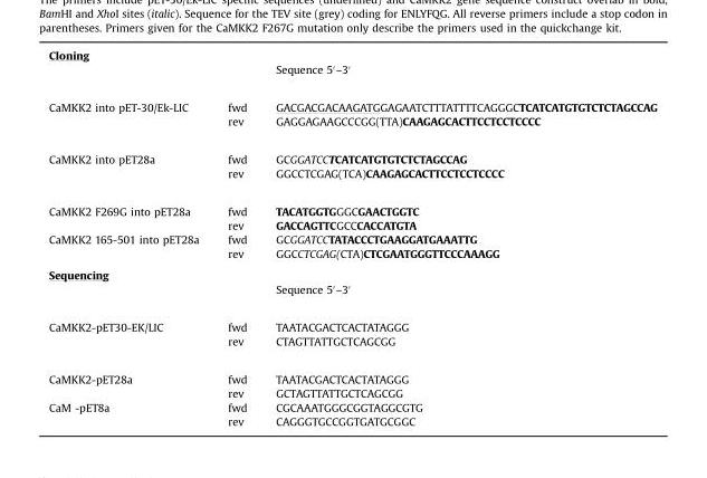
<table><tbody><tr><td colspan="3">Cloning</td></tr><tr><td colspan="2"></td><td>Sequence 5′–3′</td></tr><tr><td rowspan="2">CaMKK2 into pET-30/Ek-LIC</td><td>fwd</td><td>GACGACGACAAGATGGAGAATCTTTATTTTCAGGGCTCATCATGTGTCTCTAGCCAG</td></tr><tr><td>rev</td><td>GAGGAGAAGCCCGG(TTA)CAAGAGCACTTCCTCCTCCCC</td></tr><tr><td rowspan="2">CaMKK2 into pET28a</td><td>fwd</td><td>GCGGATCCTCATCATGTGTCTCTAGCCAG</td></tr><tr><td>rev</td><td>GGCCTCGAG(TCA)CAAGAGCACTTCCTCCTCCCC</td></tr><tr><td rowspan="2">CaMKK2 F269G into pET28a</td><td>fwd</td><td>TACATGGTGGGCGAACTGGTC</td></tr><tr><td>rev</td><td>GACCAGTTCGCCCACCATGTA</td></tr><tr><td rowspan="2">CaMKK2 165-501 into pET28a</td><td>fwd</td><td>GCGGATCCTATACCCTGAAGGATGAAATTG</td></tr><tr><td>rev</td><td>GGCCTCGAG(CTA)CTCGAATGGGTTCCCAAAGG</td></tr><tr><td colspan="3">Sequencing</td></tr><tr><td colspan="2"></td><td>Sequence 5′–3′</td></tr><tr><td rowspan="2">CaMKK2-pET30-EK/LIC</td><td>fwd</td><td>TAATACGACTCACTATAGGG</td></tr><tr><td>rev</td><td>CTAGTTATTGCTCAGCGG</td></tr><tr><td rowspan="2">CaMKK2-pET28a</td><td>fwd</td><td>TAATACGACTCACTATAGGG</td></tr><tr><td>rev</td><td>GCTAGTTATTGCTCAGCGG</td></tr><tr><td rowspan="2">CaM -pET8a</td><td>fwd</td><td>CGCAAATGGGCGGTAGGCGTG</td></tr><tr><td>rev</td><td>CAGGGTGCCGGTGATGCGGC</td></tr></tbody></table>